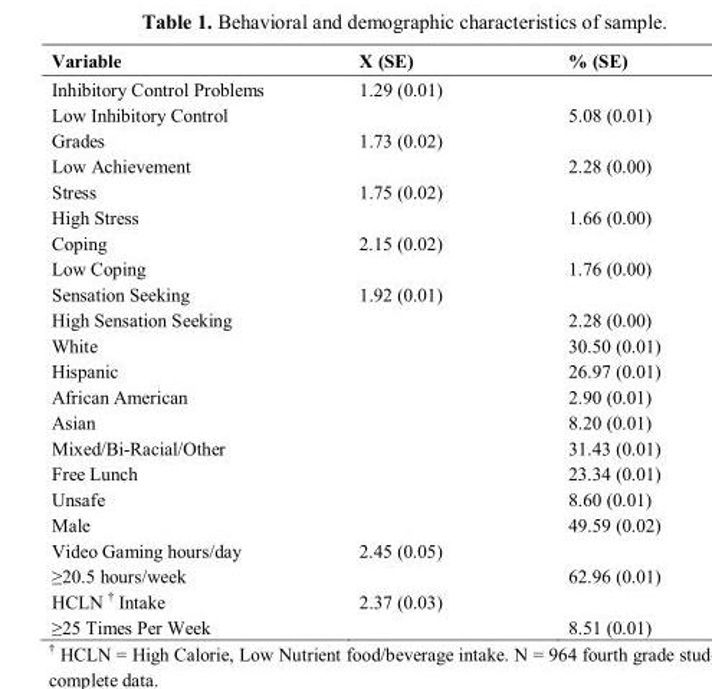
<table><thead><tr><td>Variable</td><td>X (SE)</td><td>% (SE)</td></tr></thead><tbody><tr><td>Inhibitory Control Problems</td><td>1.29 (0.01)</td><td></td></tr><tr><td>Low Inhibitory Control</td><td></td><td>5.08 (0.01)</td></tr><tr><td>Grades</td><td>1.73 (0.02)</td><td></td></tr><tr><td>Low Achievement</td><td></td><td>2.28 (0.00)</td></tr><tr><td>Stress</td><td>1.75 (0.02)</td><td></td></tr><tr><td>High Stress</td><td></td><td>1.66 (0.00)</td></tr><tr><td>Coping</td><td>2.15 (0.02)</td><td></td></tr><tr><td>Low Coping</td><td></td><td>1.76 (0.00)</td></tr><tr><td>Sensation Seeking</td><td>1.92 (0.01)</td><td></td></tr><tr><td>High Sensation Seeking</td><td></td><td>2.28 (0.00)</td></tr><tr><td>White</td><td></td><td>30.50 (0.01)</td></tr><tr><td>Hispanic</td><td></td><td>26.97 (0.01)</td></tr><tr><td>African American</td><td></td><td>2.90 (0.01)</td></tr><tr><td>Asian</td><td></td><td>8.20 (0.01)</td></tr><tr><td>Mixed/Bi-Racial/Other</td><td></td><td>31.43 (0.01)</td></tr><tr><td>Free Lunch</td><td></td><td>23.34 (0.01)</td></tr><tr><td>Unsafe</td><td></td><td>8.60 (0.01)</td></tr><tr><td>Male</td><td></td><td>49.59 (0.02)</td></tr><tr><td>Video Gaming hours/day</td><td>2.45 (0.05)</td><td></td></tr><tr><td>≥20.5 hours/week</td><td></td><td>62.96 (0.01)</td></tr><tr><td>HCLN <sup>†</sup> Intake</td><td>2.37 (0.03)</td><td></td></tr><tr><td>≥25 Times Per Week</td><td></td><td>8.51 (0.01)</td></tr></tbody></table>